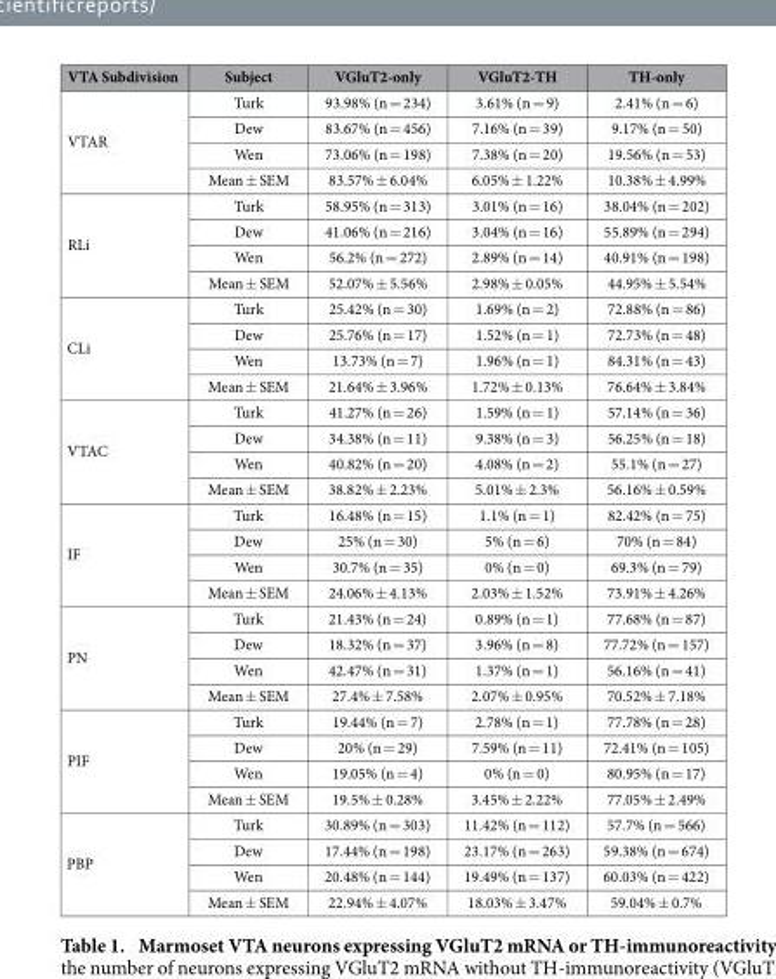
<table><thead><tr><td>VTA Subdivision</td><td>Subject</td><td>VGluT2-only</td><td>VGluT2-TH</td><td>TH-only</td></tr></thead><tbody><tr><td rowspan="4">VTAR</td><td>Turk</td><td>93.98% (n = 234)</td><td>3.61% (n = 9)</td><td>2.41% (n = 6)</td></tr><tr><td>Dew</td><td>83.67% (n = 456)</td><td>7.16% (n = 39)</td><td>9.17% (n = 50)</td></tr><tr><td>Wen</td><td>73.06% (n = 198)</td><td>7.38% (n = 20)</td><td>19.56% (n = 53)</td></tr><tr><td>Mean ± SEM</td><td>83.57% ± 6.04%</td><td>6.05% ± 1.22%</td><td>10.38% ± 4.99%</td></tr><tr><td rowspan="4">RLi</td><td>Turk</td><td>58.95% (n = 313)</td><td>3.01% (n = 16)</td><td>38.04% (n = 202)</td></tr><tr><td>Dew</td><td>41.06% (n = 216)</td><td>3.04% (n = 16)</td><td>55.89% (n = 294)</td></tr><tr><td>Wen</td><td>56.2% (n = 272)</td><td>2.89% (n = 14)</td><td>40.91% (n = 198)</td></tr><tr><td>Mean ± SEM</td><td>52.07% ± 5.56%</td><td>2.98% ± 0.05%</td><td>44.95% ± 5.54%</td></tr><tr><td rowspan="4">CLi</td><td>Turk</td><td>25.42% (n = 30)</td><td>1.69% (n = 2)</td><td>72.88% (n = 86)</td></tr><tr><td>Dew</td><td>25.76% (n = 17)</td><td>1.52% (n = 1)</td><td>72.73% (n = 48)</td></tr><tr><td>Wen</td><td>13.73% (n = 7)</td><td>1.96% (n = 1)</td><td>84.31% (n = 43)</td></tr><tr><td>Mean ± SEM</td><td>21.64% ± 3.96%</td><td>1.72% ± 0.13%</td><td>76.64% ± 3.84%</td></tr><tr><td rowspan="4">VTAC</td><td>Turk</td><td>41.27% (n = 26)</td><td>1.59% (n = 1)</td><td>57.14% (n = 36)</td></tr><tr><td>Dew</td><td>34.38% (n = 11)</td><td>9.38% (n = 3)</td><td>56.25% (n = 18)</td></tr><tr><td>Wen</td><td>40.82% (n = 20)</td><td>4.08% (n = 2)</td><td>55.1% (n = 27)</td></tr><tr><td>Mean ± SEM</td><td>38.82% ± 2.23%</td><td>5.01% ± 2.3%</td><td>56.16% ± 0.59%</td></tr><tr><td rowspan="4">IF</td><td>Turk</td><td>16.48% (n = 15)</td><td>1.1% (n = 1)</td><td>82.42% (n = 75)</td></tr><tr><td>Dew</td><td>25% (n = 30)</td><td>5% (n = 6)</td><td>70% (n = 84)</td></tr><tr><td>Wen</td><td>30.7% (n = 35)</td><td>0% (n = 0)</td><td>69.3% (n = 79)</td></tr><tr><td>Mean ± SEM</td><td>24.06% ± 4.13%</td><td>2.03% ± 1.52%</td><td>73.91% ± 4.26%</td></tr><tr><td rowspan="4">PN</td><td>Turk</td><td>21.43% (n = 24)</td><td>0.89% (n = 1)</td><td>77.68% (n = 87)</td></tr><tr><td>Dew</td><td>18.32% (n = 37)</td><td>3.96% (n = 8)</td><td>77.72% (n = 157)</td></tr><tr><td>Wen</td><td>42.47% (n = 31)</td><td>1.37% (n = 1)</td><td>56.16% (n = 41)</td></tr><tr><td>Mean ± SEM</td><td>27.4% ± 7.58%</td><td>2.07% ± 0.95%</td><td>70.52% ± 7.18%</td></tr><tr><td rowspan="4">PIF</td><td>Turk</td><td>19.44% (n = 7)</td><td>2.78% (n = 1)</td><td>77.78% (n = 28)</td></tr><tr><td>Dew</td><td>20% (n = 29)</td><td>7.59% (n = 11)</td><td>72.41% (n = 105)</td></tr><tr><td>Wen</td><td>19.05% (n = 4)</td><td>0% (n = 0)</td><td>80.95% (n = 17)</td></tr><tr><td>Mean ± SEM</td><td>19.5% ± 0.28%</td><td>3.45% ± 2.22%</td><td>77.05% ± 2.49%</td></tr><tr><td rowspan="4">PBP</td><td>Turk</td><td>30.89% (n = 303)</td><td>11.42% (n = 112)</td><td>57.7% (n = 566)</td></tr><tr><td>Dew</td><td>17.44% (n = 198)</td><td>23.17% (n = 263)</td><td>59.38% (n = 674)</td></tr><tr><td>Wen</td><td>20.48% (n = 144)</td><td>19.49% (n = 137)</td><td>60.03% (n = 422)</td></tr><tr><td>Mean ± SEM</td><td>22.94% ± 4.07%</td><td>18.03% ± 3.47%</td><td>59.04% ± 0.7%</td></tr></tbody></table>